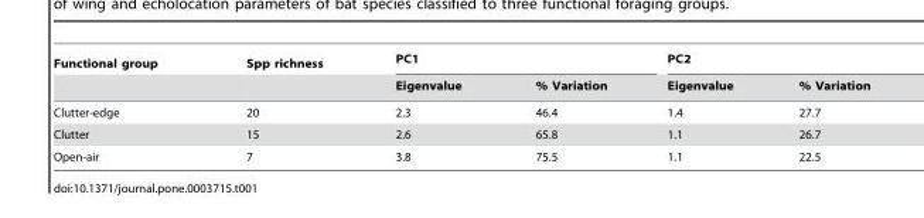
<table><thead><tr><td rowspan="2">Functional group</td><td rowspan="2">Spp richness</td><td colspan="2">PC1</td><td colspan="2">PC2</td></tr><tr><td>Eigenvalue</td><td>% Variation</td><td>Eigenvalue</td><td>% Variation</td></tr></thead><tbody><tr><td>Clutter-edge</td><td>20</td><td>2.3</td><td>46.4</td><td>1.4</td><td>27.7</td></tr><tr><td>Clutter</td><td>15</td><td>2.6</td><td>65.8</td><td>1.1</td><td>26.7</td></tr><tr><td>Open-air</td><td>7</td><td>3.8</td><td>75.5</td><td>1.1</td><td>22.5</td></tr></tbody></table>